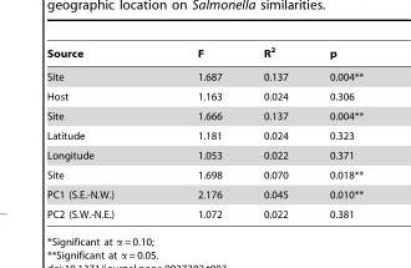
<table><thead><tr><td>Source</td><td>F</td><td>R<sup>2</sup></td><td>p</td></tr></thead><tbody><tr><td>Site</td><td>1.687</td><td>0.137</td><td>0.004**</td></tr><tr><td>Host</td><td>1.163</td><td>0.024</td><td>0.306</td></tr><tr><td>Site</td><td>1.666</td><td>0.137</td><td>0.004**</td></tr><tr><td>Latitude</td><td>1.181</td><td>0.024</td><td>0.323</td></tr><tr><td>Longitude</td><td>1.053</td><td>0.022</td><td>0.371</td></tr><tr><td>Site</td><td>1.698</td><td>0.070</td><td>0.018**</td></tr><tr><td>PC1 (S.E.-N.W.)</td><td>2.176</td><td>0.045</td><td>0.010**</td></tr><tr><td>PC2 (S.W.-N.E.)</td><td>1.072</td><td>0.022</td><td>0.381</td></tr></tbody></table>